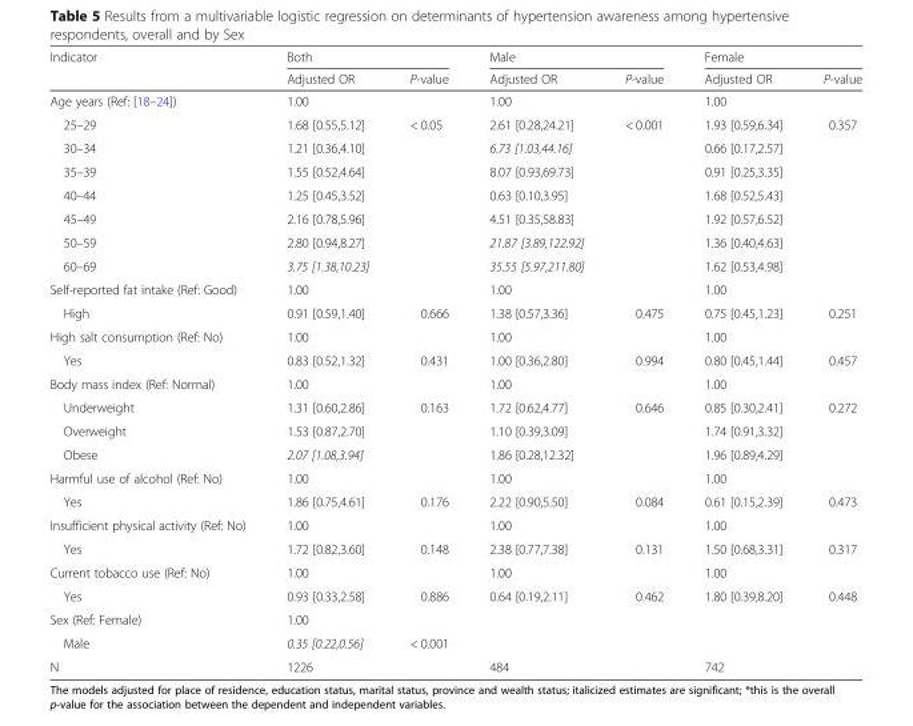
<table><thead><tr><td rowspan="2">Indicator</td><td colspan="2">Both</td><td colspan="2">Male</td><td colspan="2">Female</td></tr><tr><td>Adjusted OR</td><td>P-value</td><td>Adjusted OR</td><td>P-value</td><td>Adjusted OR</td><td>P-value</td></tr></thead><tbody><tr><td>Age years (Ref: [18–24])</td><td>1.00</td><td></td><td>1.00</td><td></td><td>1.00</td><td></td></tr><tr><td>25–29</td><td>1.68 [0.55,5.12]</td><td>&lt; 0.05</td><td>2.61 [0.28,24.21]</td><td>&lt; 0.001</td><td>1.93 [0.59,6.34]</td><td>0.357</td></tr><tr><td>30–34</td><td>1.21 [0.36,4.10]</td><td></td><td>6.73 [1.03,44.16]</td><td></td><td>0.66 [0.17,2.57]</td><td></td></tr><tr><td>35–39</td><td>1.55 [0.52,4.64]</td><td></td><td>8.07 [0.93,69.73]</td><td></td><td>0.91 [0.25,3.35]</td><td></td></tr><tr><td>40–44</td><td>1.25 [0.45,3.52]</td><td></td><td>0.63 [0.10,3.95]</td><td></td><td>1.68 [0.52,5.43]</td><td></td></tr><tr><td>45–49</td><td>2.16 [0.78,5.96]</td><td></td><td>4.51 [0.35,58.83]</td><td></td><td>1.92 [0.57,6.52]</td><td></td></tr><tr><td>50–59</td><td>2.80 [0.94,8.27]</td><td></td><td>21.87 [3.89,122.92]</td><td></td><td>1.36 [0.40,4.63]</td><td></td></tr><tr><td>60–69</td><td>3.75 [1.38,10.23]</td><td></td><td>35.55 [5.97,211.80]</td><td></td><td>1.62 [0.53,4.98]</td><td></td></tr><tr><td>Self-reported fat intake (Ref: Good)</td><td>1.00</td><td></td><td>1.00</td><td></td><td>1.00</td><td></td></tr><tr><td>High</td><td>0.91 [0.59,1.40]</td><td>0.666</td><td>1.38 [0.57,3.36]</td><td>0.475</td><td>0.75 [0.45,1.23]</td><td>0.251</td></tr><tr><td>High salt consumption (Ref: No)</td><td>1.00</td><td></td><td>1.00</td><td></td><td>1.00</td><td></td></tr><tr><td>Yes</td><td>0.83 [0.52,1.32]</td><td>0.431</td><td>1.00 [0.36,2.80]</td><td>0.994</td><td>0.80 [0.45,1.44]</td><td>0.457</td></tr><tr><td>Body mass index (Ref: Normal)</td><td>1.00</td><td></td><td>1.00</td><td></td><td>1.00</td><td></td></tr><tr><td>Underweight</td><td>1.31 [0.60,2.86]</td><td>0.163</td><td>1.72 [0.62,4.77]</td><td>0.646</td><td>0.85 [0.30,2.41]</td><td>0.272</td></tr><tr><td>Overweight</td><td>1.53 [0.87,2.70]</td><td></td><td>1.10 [0.39,3.09]</td><td></td><td>1.74 [0.91,3.32]</td><td></td></tr><tr><td>Obese</td><td>2.07 [1.08,3.94]</td><td></td><td>1.86 [0.28,12.32]</td><td></td><td>1.96 [0.89,4.29]</td><td></td></tr><tr><td>Harmful use of alcohol (Ref: No)</td><td>1.00</td><td></td><td>1.00</td><td></td><td>1.00</td><td></td></tr><tr><td>Yes</td><td>1.86 [0.75,4.61]</td><td>0.176</td><td>2.22 [0.90,5.50]</td><td>0.084</td><td>0.61 [0.15,2.39]</td><td>0.473</td></tr><tr><td>Insufficient physical activity (Ref: No)</td><td>1.00</td><td></td><td>1.00</td><td></td><td>1.00</td><td></td></tr><tr><td>Yes</td><td>1.72 [0.82,3.60]</td><td>0.148</td><td>2.38 [0.77,7.38]</td><td>0.131</td><td>1.50 [0.68,3.31]</td><td>0.317</td></tr><tr><td>Current tobacco use (Ref: No)</td><td>1.00</td><td></td><td>1.00</td><td></td><td>1.00</td><td></td></tr><tr><td>Yes</td><td>0.93 [0.33,2.58]</td><td>0.886</td><td>0.64 [0.19,2.11]</td><td>0.462</td><td>1.80 [0.39,8.20]</td><td>0.448</td></tr><tr><td>Sex (Ref: Female)</td><td>1.00</td><td></td><td></td><td></td><td></td><td></td></tr><tr><td>Male</td><td>0.35 [0.22,0.56]</td><td>&lt; 0.001</td><td></td><td></td><td></td><td></td></tr><tr><td>N</td><td colspan="2">1226</td><td colspan="2">484</td><td colspan="2">742</td></tr></tbody></table>